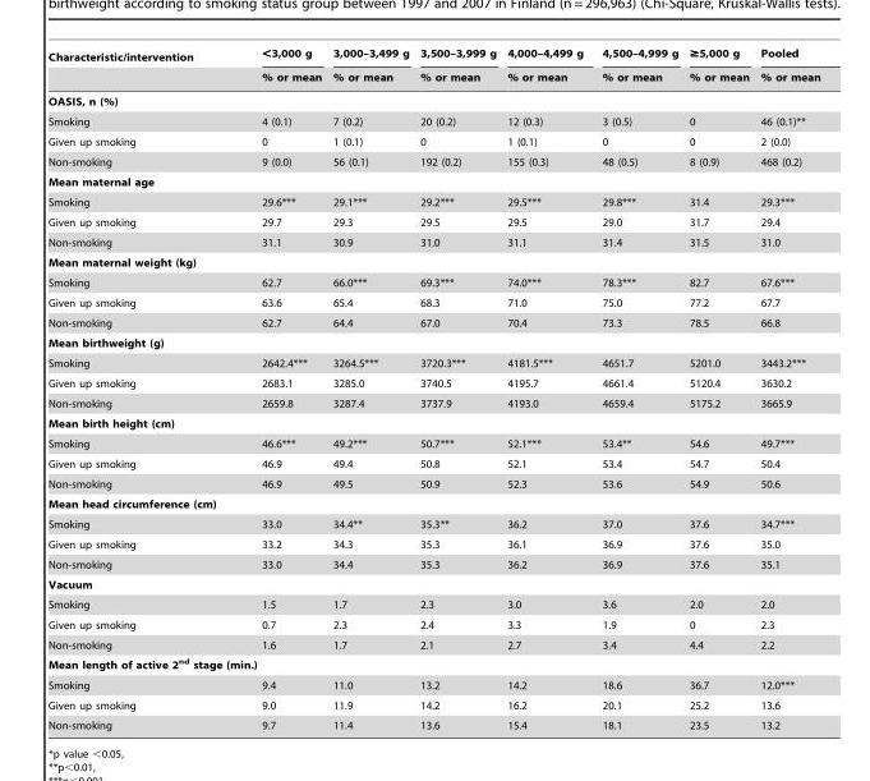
<table><thead><tr><td rowspan="2">Characteristic/intervention</td><td rowspan="2">&lt;3,000 g % or mean</td><td rowspan="2">3,000–3,499 g % or mean</td><td rowspan="2">3,500–3,999 g % or mean</td><td rowspan="2">4,000–4,499 g % or mean</td><td rowspan="2">4,500–4,999 g % or mean</td><td rowspan="2">≥5,000 g % or mean</td><td rowspan="2">Pooled % or mean</td></tr><tr></tr></thead><tbody><tr><td colspan="8">OASIS, n (%)</td></tr><tr><td>Smoking</td><td>4 (0.1)</td><td>7 (0.2)</td><td>20 (0.2)</td><td>12 (0.3)</td><td>3 (0.5)</td><td>0</td><td>46 (0.1)**</td></tr><tr><td>Given up smoking</td><td>0</td><td>1 (0.1)</td><td>0</td><td>1 (0.1)</td><td>0</td><td>0</td><td>2 (0.0)</td></tr><tr><td>Non-smoking</td><td>9 (0.0)</td><td>56 (0.1)</td><td>192 (0.2)</td><td>155 (0.3)</td><td>48 (0.5)</td><td>8 (0.9)</td><td>468 (0.2)</td></tr><tr><td colspan="8">Mean maternal age</td></tr><tr><td>Smoking</td><td>29.6***</td><td>29.1***</td><td>29.2***</td><td>29.5***</td><td>29.8***</td><td>31.4</td><td>29.3***</td></tr><tr><td>Given up smoking</td><td>29.7</td><td>29.3</td><td>29.5</td><td>29.5</td><td>29.0</td><td>31.7</td><td>29.4</td></tr><tr><td>Non-smoking</td><td>31.1</td><td>30.9</td><td>31.0</td><td>31.1</td><td>31.4</td><td>31.5</td><td>31.0</td></tr><tr><td colspan="8">Mean maternal weight (kg)</td></tr><tr><td>Smoking</td><td>62.7</td><td>66.0***</td><td>69.3***</td><td>74.0***</td><td>78.3***</td><td>82.7</td><td>67.6***</td></tr><tr><td>Given up smoking</td><td>63.6</td><td>65.4</td><td>68.3</td><td>71.0</td><td>75.0</td><td>77.2</td><td>67.7</td></tr><tr><td>Non-smoking</td><td>62.7</td><td>64.4</td><td>67.0</td><td>70.4</td><td>73.3</td><td>78.5</td><td>66.8</td></tr><tr><td colspan="8">Mean birthweight (g)</td></tr><tr><td>Smoking</td><td>2642.4***</td><td>3264.5***</td><td>3720.3***</td><td>4181.5***</td><td>4651.7</td><td>5201.0</td><td>3443.2***</td></tr><tr><td>Given up smoking</td><td>2683.1</td><td>3285.0</td><td>3740.5</td><td>4195.7</td><td>4661.4</td><td>5120.4</td><td>3630.2</td></tr><tr><td>Non-smoking</td><td>2659.8</td><td>3287.4</td><td>3737.9</td><td>4193.0</td><td>4659.4</td><td>5175.2</td><td>3665.9</td></tr><tr><td colspan="8">Mean birth height (cm)</td></tr><tr><td>Smoking</td><td>46.6***</td><td>49.2***</td><td>50.7***</td><td>52.1***</td><td>53.4**</td><td>54.6</td><td>49.7***</td></tr><tr><td>Given up smoking</td><td>46.9</td><td>49.4</td><td>50.8</td><td>52.1</td><td>53.4</td><td>54.7</td><td>50.4</td></tr><tr><td>Non-smoking</td><td>46.9</td><td>49.5</td><td>50.9</td><td>52.3</td><td>53.6</td><td>54.9</td><td>50.6</td></tr><tr><td colspan="8">Mean head circumference (cm)</td></tr><tr><td>Smoking</td><td>33.0</td><td>34.4**</td><td>35.3**</td><td>36.2</td><td>37.0</td><td>37.6</td><td>34.7***</td></tr><tr><td>Given up smoking</td><td>33.2</td><td>34.3</td><td>35.3</td><td>36.1</td><td>36.9</td><td>37.6</td><td>35.0</td></tr><tr><td>Non-smoking</td><td>33.0</td><td>34.4</td><td>35.3</td><td>36.2</td><td>36.9</td><td>37.6</td><td>35.1</td></tr><tr><td colspan="8">Vacuum</td></tr><tr><td>Smoking</td><td>1.5</td><td>1.7</td><td>2.3</td><td>3.0</td><td>3.6</td><td>2.0</td><td>2.0</td></tr><tr><td>Given up smoking</td><td>0.7</td><td>2.3</td><td>2.4</td><td>3.3</td><td>1.9</td><td>0</td><td>2.3</td></tr><tr><td>Non-smoking</td><td>1.6</td><td>1.7</td><td>2.1</td><td>2.7</td><td>3.4</td><td>4.4</td><td>2.2</td></tr><tr><td colspan="8">Mean length of active 2<sup>nd</sup> stage (min.)</td></tr><tr><td>Smoking</td><td>9.4</td><td>11.0</td><td>13.2</td><td>14.2</td><td>18.6</td><td>36.7</td><td>12.0***</td></tr><tr><td>Given up smoking</td><td>9.0</td><td>11.9</td><td>14.2</td><td>16.2</td><td>20.1</td><td>25.2</td><td>13.6</td></tr><tr><td>Non-smoking</td><td>9.7</td><td>11.4</td><td>13.6</td><td>15.4</td><td>18.1</td><td>23.5</td><td>13.2</td></tr></tbody></table>